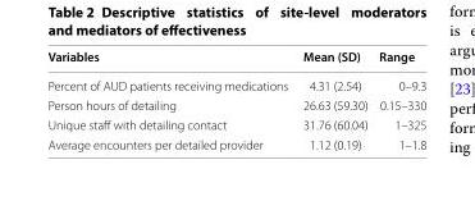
<table><thead><tr><td>Variables</td><td>Mean (SD)</td><td>Range</td></tr></thead><tbody><tr><td>Percent of AUD patients receiving medications</td><td>4.31 (2.54)</td><td>0–9.3</td></tr><tr><td>Person hours of detailing</td><td>26.63 (59.30)</td><td>0.15–330</td></tr><tr><td>Unique staff with detailing contact</td><td>31.76 (60.04)</td><td>1–325</td></tr><tr><td>Average encounters per detailed provider</td><td>1.12 (0.19)</td><td>1–1.8</td></tr></tbody></table>